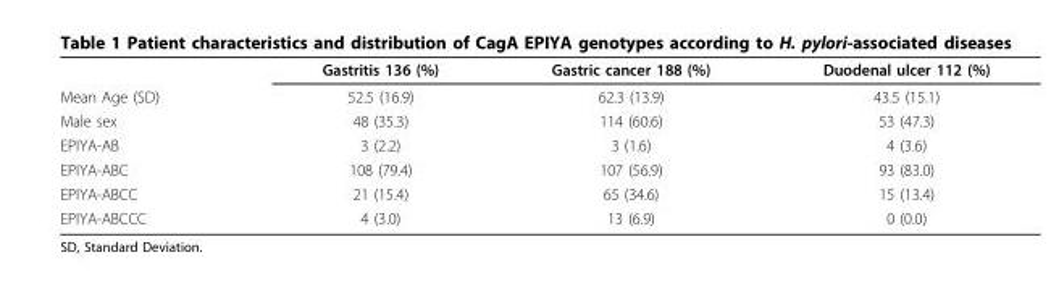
<table><thead><tr><td></td><td>Gastritis 136 (%)</td><td>Gastric cancer 188 (%)</td><td>Duodenal ulcer 112 (%)</td></tr></thead><tbody><tr><td>Mean Age (SD)</td><td>52.5 (16.9)</td><td>62.3 (13.9)</td><td>43.5 (15.1)</td></tr><tr><td>Male sex</td><td>48 (35.3)</td><td>114 (60.6)</td><td>53 (47.3)</td></tr><tr><td>EPIYA-AB</td><td>3 (2.2)</td><td>3 (1.6)</td><td>4 (3.6)</td></tr><tr><td>EPIYA-ABC</td><td>108 (79.4)</td><td>107 (56.9)</td><td>93 (83.0)</td></tr><tr><td>EPIYA-ABCC</td><td>21 (15.4)</td><td>65 (34.6)</td><td>15 (13.4)</td></tr><tr><td>EPIYA-ABCCC</td><td>4 (3.0)</td><td>13 (6.9)</td><td>0 (0.0)</td></tr></tbody></table>